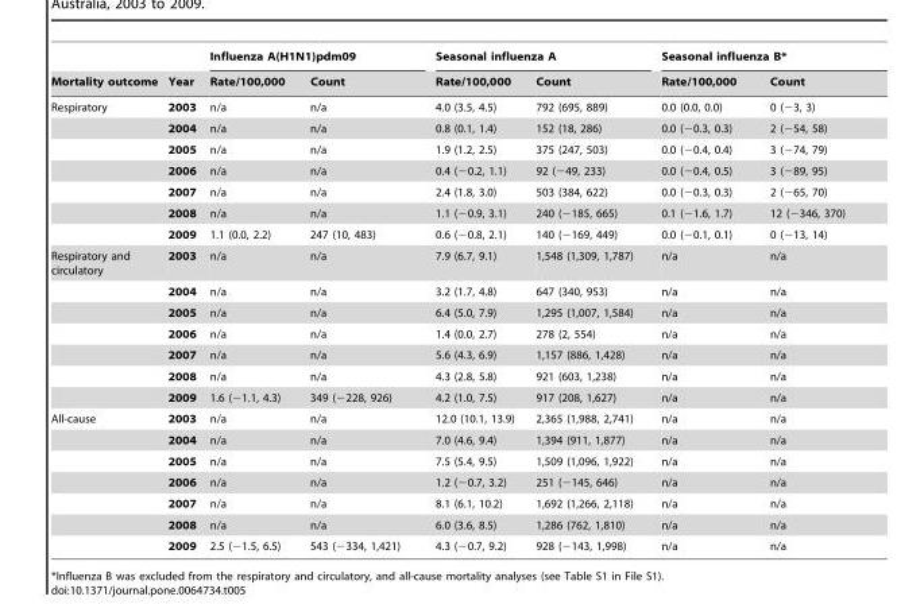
<table><thead><tr><td rowspan="2">Mortality outcome</td><td rowspan="2">Year</td><td colspan="2">Influenza A(H1N1)pdm09</td><td colspan="2">Seasonal influenza A</td><td colspan="2">Seasonal influenza B*</td></tr><tr><td>Rate/100,000</td><td>Count</td><td>Rate/100,000</td><td>Count</td><td>Rate/100,000</td><td>Count</td></tr></thead><tbody><tr><td rowspan="7">Respiratory</td><td>2003</td><td>n/a</td><td>n/a</td><td>4.0 (3.5, 4.5)</td><td>792 (695, 889)</td><td>0.0 (0.0, 0.0)</td><td>0 (−3, 3)</td></tr><tr><td>2004</td><td>n/a</td><td>n/a</td><td>0.8 (0.1, 1.4)</td><td>152 (18, 286)</td><td>0.0 (−0.3, 0.3)</td><td>2 (−54, 58)</td></tr><tr><td>2005</td><td>n/a</td><td>n/a</td><td>1.9 (1.2, 2.5)</td><td>375 (247, 503)</td><td>0.0 (−0.4, 0.4)</td><td>3 (−74, 79)</td></tr><tr><td>2006</td><td>n/a</td><td>n/a</td><td>0.4 (−0.2, 1.1)</td><td>92 (−49, 233)</td><td>0.0 (−0.4, 0.5)</td><td>3 (−89, 95)</td></tr><tr><td>2007</td><td>n/a</td><td>n/a</td><td>2.4 (1.8, 3.0)</td><td>503 (384, 622)</td><td>0.0 (−0.3, 0.3)</td><td>2 (−65, 70)</td></tr><tr><td>2008</td><td>n/a</td><td>n/a</td><td>1.1 (−0.9, 3.1)</td><td>240 (−185, 665)</td><td>0.1 (−1.6, 1.7)</td><td>12 (−346, 370)</td></tr><tr><td>2009</td><td>1.1 (0.0, 2.2)</td><td>247 (10, 483)</td><td>0.6 (−0.8, 2.1)</td><td>140 (−169, 449)</td><td>0.0 (−0.1, 0.1)</td><td>0 (−13, 14)</td></tr><tr><td rowspan="7">Respiratory and circulatory</td><td>2003</td><td>n/a</td><td>n/a</td><td>7.9 (6.7, 9.1)</td><td>1,548 (1,309, 1,787)</td><td>n/a</td><td>n/a</td></tr><tr><td>2004</td><td>n/a</td><td>n/a</td><td>3.2 (1.7, 4.8)</td><td>647 (340, 953)</td><td>n/a</td><td>n/a</td></tr><tr><td>2005</td><td>n/a</td><td>n/a</td><td>6.4 (5.0, 7.9)</td><td>1,295 (1,007, 1,584)</td><td>n/a</td><td>n/a</td></tr><tr><td>2006</td><td>n/a</td><td>n/a</td><td>1.4 (0.0, 2.7)</td><td>278 (2, 554)</td><td>n/a</td><td>n/a</td></tr><tr><td>2007</td><td>n/a</td><td>n/a</td><td>5.6 (4.3, 6.9)</td><td>1,157 (886, 1,428)</td><td>n/a</td><td>n/a</td></tr><tr><td>2008</td><td>n/a</td><td>n/a</td><td>4.3 (2.8, 5.8)</td><td>921 (603, 1,238)</td><td>n/a</td><td>n/a</td></tr><tr><td>2009</td><td>1.6 (−1.1, 4.3)</td><td>349 (−228, 926)</td><td>4.2 (1.0, 7.5)</td><td>917 (208, 1,627)</td><td>n/a</td><td>n/a</td></tr><tr><td rowspan="7">All-cause</td><td>2003</td><td>n/a</td><td>n/a</td><td>12.0 (10.1, 13.9)</td><td>2,365 (1,988, 2,741)</td><td>n/a</td><td>n/a</td></tr><tr><td>2004</td><td>n/a</td><td>n/a</td><td>7.0 (4.6, 9.4)</td><td>1,394 (911, 1,877)</td><td>n/a</td><td>n/a</td></tr><tr><td>2005</td><td>n/a</td><td>n/a</td><td>7.5 (5.4, 9.5)</td><td>1,509 (1,096, 1,922)</td><td>n/a</td><td>n/a</td></tr><tr><td>2006</td><td>n/a</td><td>n/a</td><td>1.2 (−0.7, 3.2)</td><td>251 (−145, 646)</td><td>n/a</td><td>n/a</td></tr><tr><td>2007</td><td>n/a</td><td>n/a</td><td>8.1 (6.1, 10.2)</td><td>1,692 (1,266, 2,118)</td><td>n/a</td><td>n/a</td></tr><tr><td>2008</td><td>n/a</td><td>n/a</td><td>6.0 (3.6, 8.5)</td><td>1,286 (762, 1,810)</td><td>n/a</td><td>n/a</td></tr><tr><td>2009</td><td>2.5 (−1.5, 6.5)</td><td>543 (−334, 1,421)</td><td>4.3 (−0.7, 9.2)</td><td>928 (−143, 1,998)</td><td>n/a</td><td>n/a</td></tr></tbody></table>